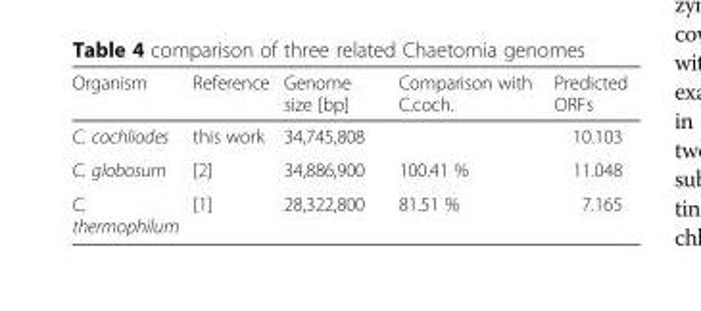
<table><thead><tr><td>Organism</td><td>Reference</td><td>Genome size [bp]</td><td>Comparison with C.coch.</td><td>Predicted ORFs</td></tr></thead><tbody><tr><td>C. cochliodes</td><td>this work</td><td>34,745,808</td><td></td><td>10.103</td></tr><tr><td>C. globosum</td><td>[2]</td><td>34,886,900</td><td>100.41 %</td><td>11.048</td></tr><tr><td>C. thermophilum</td><td>[1]</td><td>28,322,800</td><td>81.51 %</td><td>7.165</td></tr></tbody></table>